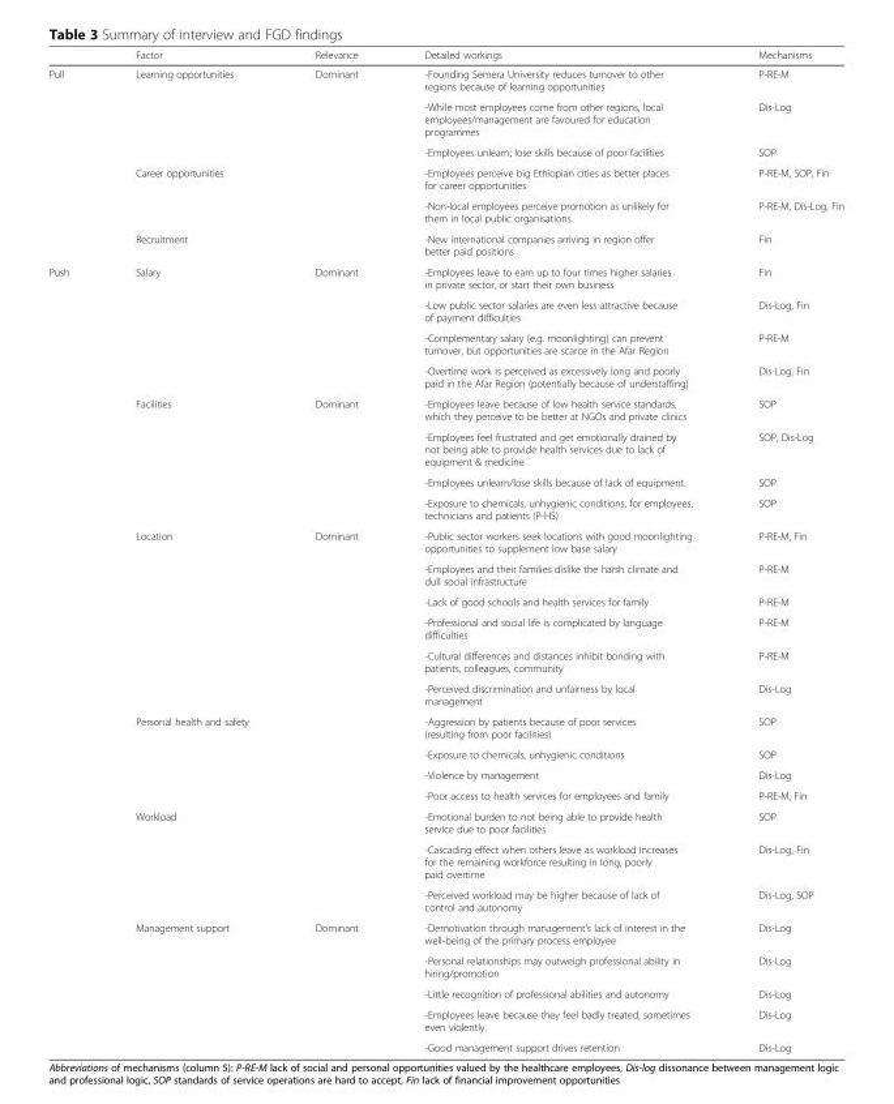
<table><thead><tr><td></td><td>Factor</td><td>Relevance</td><td>Detailed workings</td><td>Mechanisms</td></tr></thead><tbody><tr><td rowspan="6">Pull</td><td rowspan="3">Learning opportunities</td><td rowspan="3">Dominant</td><td>-Founding Semera University reduces turnover to other regions because of learning opportunities</td><td>P-RE-M</td></tr><tr><td>-While most employees come from other regions, local employees/management are favoured for education programmes</td><td>Dis-Log</td></tr><tr><td>-Employees unlearn; lose skills because of poor facilities</td><td>SOP</td></tr><tr><td rowspan="2">Career opportunities</td><td rowspan="2"></td><td>-Employees perceive big Ethiopian cities as better places for career opportunities</td><td>P-RE-M, SOP, Fin</td></tr><tr><td>-Non-local employees perceive promotion as unlikely for them in local public organisations</td><td>P-RE-M, Dis-Log, Fin</td></tr><tr><td>Recruitment</td><td></td><td>-New international companies arriving in region offer better paid positions</td><td>Fin</td></tr><tr><td rowspan="26">Push</td><td rowspan="4">Salary</td><td rowspan="4">Dominant</td><td>-Employees leave to earn up to four times higher salaries in private sector, or start their own business</td><td>Fin</td></tr><tr><td>-Low public sector salaries are even less attractive because of payment difficulties</td><td>Dis-Log, Fin</td></tr><tr><td>-Complementary salary (e.g. moonlighting) can prevent turnover, but opportunities are scarce in the Afar Region</td><td>P-RE-M</td></tr><tr><td>-Overtime work is perceived as excessively long and poorly paid in the Afar Region (potentially because of understaffing)</td><td>Dis-Log, Fin</td></tr><tr><td rowspan="4">Facilities</td><td rowspan="4">Dominant</td><td>-Employees leave because of low health service standards, which they perceive to be better at NGOs and private clinics</td><td>SOP</td></tr><tr><td>-Employees feel frustrated and get emotionally drained by not being able to provide health services due to lack of equipment &amp; medicine</td><td>SOP, Dis-Log</td></tr><tr><td>-Employees unlearn/lose skills because of lack of equipment.</td><td>SOP</td></tr><tr><td>-Exposure to chemicals, unhygienic conditions, for employees, technicians and patients (P-HS)</td><td>SOP</td></tr><tr><td rowspan="6">Location</td><td rowspan="6">Dominant</td><td>-Public sector workers seek locations with good moonlighting opportunities to supplement low base salary</td><td>P-RE-M, Fin</td></tr><tr><td>-Employees and their families dislike the harsh climate and dull social infrastructure</td><td>P-RE-M</td></tr><tr><td>-Lack of good schools and health services for family</td><td>P-RE-M</td></tr><tr><td>-Professional and social life is complicated by language difficulties</td><td>P-RE-M</td></tr><tr><td>-Cultural differences and distances inhibit bonding with patients, colleagues, community</td><td>P-RE-M</td></tr><tr><td>-Perceived discrimination and unfairness by local management</td><td>Dis-Log</td></tr><tr><td rowspan="4">Personal health and safety</td><td rowspan="4"></td><td>-Aggression by patients because of poor services (resulting from poor facilities)</td><td>SOP</td></tr><tr><td>-Exposure to chemicals, unhygienic conditions</td><td>SOP</td></tr><tr><td>-Violence by management</td><td>Dis-Log</td></tr><tr><td>-Poor access to health services for employees and family</td><td>P-RE-M, Fin</td></tr><tr><td rowspan="3">Workload</td><td rowspan="3"></td><td>-Emotional burden to not being able to provide health service due to poor facilities</td><td>SOP</td></tr><tr><td>-Cascading effect when others leave as workload increases for the remaining workforce resulting in long, poorly paid overtime</td><td>Dis-Log, Fin</td></tr><tr><td>-Perceived workload may be higher because of lack of control and autonomy</td><td>Dis-Log, SOP</td></tr><tr><td rowspan="5">Management support</td><td rowspan="5">Dominant</td><td>-Demotivation through management’s lack of interest in the well-being of the primary process employee</td><td>Dis-Log</td></tr><tr><td>-Personal relationships may outweigh professional ability in hiring/promotion</td><td>Dis-Log</td></tr><tr><td>-Little recognition of professional abilities and autonomy</td><td>Dis-Log</td></tr><tr><td>-Employees leave because they feel badly treated, sometimes even violently.</td><td>Dis-Log</td></tr><tr><td>-Good management support drives retention</td><td>Dis-Log</td></tr></tbody></table>